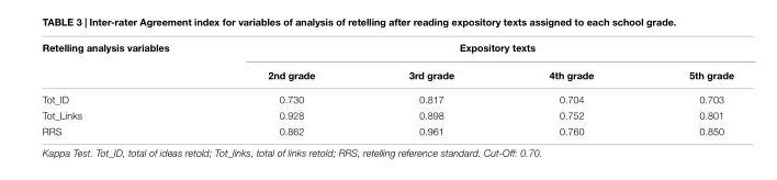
<table><thead><tr><td rowspan="2">Retelling analysis variables</td><td colspan="4">Expository texts</td></tr><tr><td>2nd grade</td><td>3rd grade</td><td>4th grade</td><td>5th grade</td></tr></thead><tbody><tr><td>Tot_ID</td><td>0.730</td><td>0.817</td><td>0.704</td><td>0.703</td></tr><tr><td>Tot_Links</td><td>0.928</td><td>0.898</td><td>0.752</td><td>0.801</td></tr><tr><td>RRS</td><td>0.862</td><td>0.961</td><td>0.760</td><td>0.850</td></tr></tbody></table>